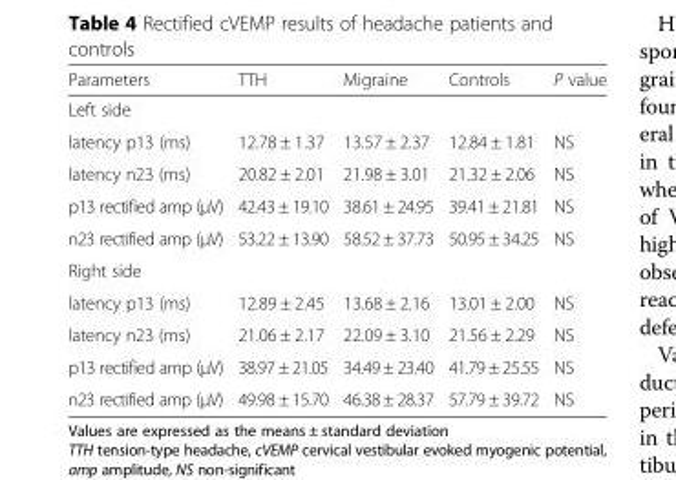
<table><thead><tr><td>Parameters</td><td>TTH</td><td>Migraine</td><td>Controls</td><td>P value</td></tr></thead><tbody><tr><td colspan="5">Left side</td></tr><tr><td>latency p13 (ms)</td><td>12.78 ± 1.37</td><td>13.57 ± 2.37</td><td>12.84 ± 1.81</td><td>NS</td></tr><tr><td>latency n23 (ms)</td><td>20.82 ± 2.01</td><td>21.98 ± 3.01</td><td>21.32 ± 2.06</td><td>NS</td></tr><tr><td>p13 rectified amp (μV)</td><td>42.43 ± 19.10</td><td>38.61 ± 24.95</td><td>39.41 ± 21.81</td><td>NS</td></tr><tr><td>n23 rectified amp (μV)</td><td>53.22 ± 13.90</td><td>58.52 ± 37.73</td><td>50.95 ± 34.25</td><td>NS</td></tr><tr><td colspan="5">Right side</td></tr><tr><td>latency p13 (ms)</td><td>12.89 ± 2.45</td><td>13.68 ± 2.16</td><td>13.01 ± 2.00</td><td>NS</td></tr><tr><td>latency n23 (ms)</td><td>21.06 ± 2.17</td><td>22.09 ± 3.10</td><td>21.56 ± 2.29</td><td>NS</td></tr><tr><td>p13 rectified amp (μV)</td><td>38.97 ± 21.05</td><td>34.49 ± 23.40</td><td>41.79 ± 25.55</td><td>NS</td></tr><tr><td>n23 rectified amp (μV)</td><td>49.98 ± 15.70</td><td>46.38 ± 28.37</td><td>57.79 ± 39.72</td><td>NS</td></tr></tbody></table>